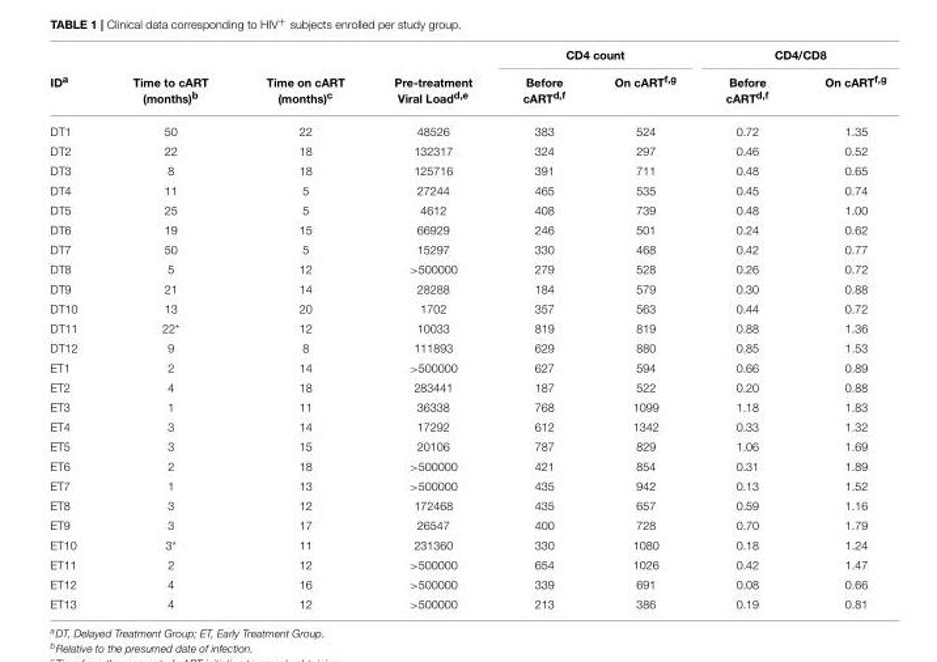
<table><thead><tr><td rowspan="2">ID<sup>a</sup></td><td rowspan="2">Time to cART (months)<sup>b</sup></td><td rowspan="2">Time on cART (months)<sup>c</sup></td><td rowspan="2">Pre-treatment Viral Load<sup>d,e</sup></td><td colspan="2">CD4 count</td><td colspan="2">CD4/CD8</td></tr><tr><td>Before cART<sup>d,f</sup></td><td>On cART<sup>f,g</sup></td><td>Before cART<sup>d,f</sup></td><td>On cART<sup>f,g</sup></td></tr></thead><tbody><tr><td>DT1</td><td>50</td><td>22</td><td>48526</td><td>383</td><td>524</td><td>0.72</td><td>1.35</td></tr><tr><td>DT2</td><td>22</td><td>18</td><td>132317</td><td>324</td><td>297</td><td>0.46</td><td>0.52</td></tr><tr><td>DT3</td><td>8</td><td>18</td><td>125716</td><td>391</td><td>711</td><td>0.48</td><td>0.65</td></tr><tr><td>DT4</td><td>11</td><td>5</td><td>27244</td><td>465</td><td>535</td><td>0.45</td><td>0.74</td></tr><tr><td>DT5</td><td>25</td><td>5</td><td>4612</td><td>408</td><td>739</td><td>0.48</td><td>1.00</td></tr><tr><td>DT6</td><td>19</td><td>15</td><td>66929</td><td>246</td><td>501</td><td>0.24</td><td>0.62</td></tr><tr><td>DT7</td><td>50</td><td>5</td><td>15297</td><td>330</td><td>468</td><td>0.42</td><td>0.77</td></tr><tr><td>DT8</td><td>5</td><td>12</td><td>&gt;500000</td><td>279</td><td>528</td><td>0.26</td><td>0.72</td></tr><tr><td>DT9</td><td>21</td><td>14</td><td>28288</td><td>184</td><td>579</td><td>0.30</td><td>0.88</td></tr><tr><td>DT10</td><td>13</td><td>20</td><td>1702</td><td>357</td><td>563</td><td>0.44</td><td>0.72</td></tr><tr><td>DT11</td><td>22*</td><td>12</td><td>10033</td><td>819</td><td>819</td><td>0.88</td><td>1.36</td></tr><tr><td>DT12</td><td>9</td><td>8</td><td>111893</td><td>629</td><td>880</td><td>0.85</td><td>1.53</td></tr><tr><td>ET1</td><td>2</td><td>14</td><td>&gt;500000</td><td>627</td><td>594</td><td>0.66</td><td>0.89</td></tr><tr><td>ET2</td><td>4</td><td>18</td><td>283441</td><td>187</td><td>522</td><td>0.20</td><td>0.88</td></tr><tr><td>ET3</td><td>1</td><td>11</td><td>36338</td><td>768</td><td>1099</td><td>1.18</td><td>1.83</td></tr><tr><td>ET4</td><td>3</td><td>14</td><td>17292</td><td>612</td><td>1342</td><td>0.33</td><td>1.32</td></tr><tr><td>ET5</td><td>3</td><td>15</td><td>20106</td><td>787</td><td>829</td><td>1.06</td><td>1.69</td></tr><tr><td>ET6</td><td>2</td><td>18</td><td>&gt;500000</td><td>421</td><td>854</td><td>0.31</td><td>1.89</td></tr><tr><td>ET7</td><td>1</td><td>13</td><td>&gt;500000</td><td>435</td><td>942</td><td>0.13</td><td>1.52</td></tr><tr><td>ET8</td><td>3</td><td>12</td><td>172468</td><td>435</td><td>657</td><td>0.59</td><td>1.16</td></tr><tr><td>ET9</td><td>3</td><td>17</td><td>26547</td><td>400</td><td>728</td><td>0.70</td><td>1.79</td></tr><tr><td>ET10</td><td>3*</td><td>11</td><td>231360</td><td>330</td><td>1080</td><td>0.18</td><td>1.24</td></tr><tr><td>ET11</td><td>2</td><td>12</td><td>&gt;500000</td><td>654</td><td>1026</td><td>0.42</td><td>1.47</td></tr><tr><td>ET12</td><td>4</td><td>16</td><td>&gt;500000</td><td>339</td><td>691</td><td>0.08</td><td>0.66</td></tr><tr><td>ET13</td><td>4</td><td>12</td><td>&gt;500000</td><td>213</td><td>386</td><td>0.19</td><td>0.81</td></tr></tbody></table>